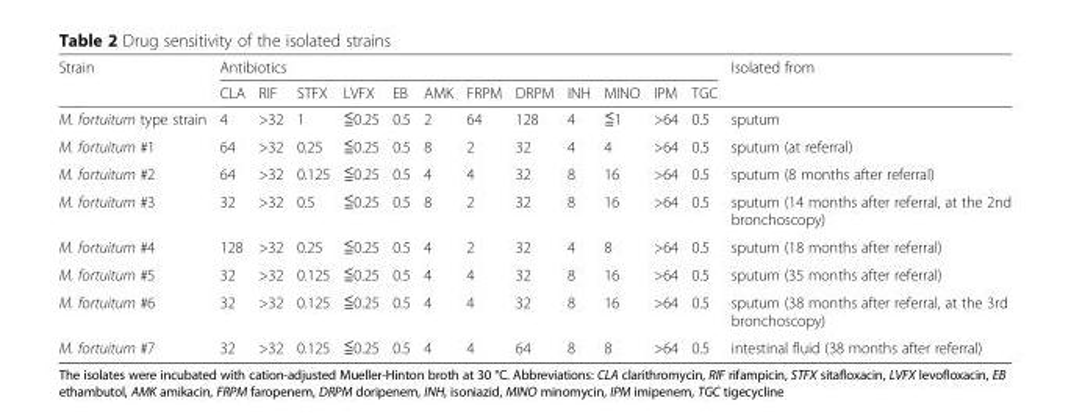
<table><thead><tr><td rowspan="2">Strain</td><td colspan="12">Antibiotics</td><td rowspan="2">Isolated from</td></tr><tr><td>CLA</td><td>RIF</td><td>STFX</td><td>LVFX</td><td>EB</td><td>AMK</td><td>FRPM</td><td>DRPM</td><td>INH</td><td>MINO</td><td>IPM</td><td>TGC</td></tr></thead><tbody><tr><td>M. fortuitum type strain</td><td>4</td><td>&gt;32</td><td>1</td><td>≦0.25</td><td>0.5</td><td>2</td><td>64</td><td>128</td><td>4</td><td>≦1</td><td>&gt;64</td><td>0.5</td><td>sputum</td></tr><tr><td>M. fortuitum #1</td><td>64</td><td>&gt;32</td><td>0.25</td><td>≦0.25</td><td>0.5</td><td>8</td><td>2</td><td>32</td><td>4</td><td>4</td><td>&gt;64</td><td>0.5</td><td>sputum (at referral)</td></tr><tr><td>M. fortuitum #2</td><td>64</td><td>&gt;32</td><td>0.125</td><td>≦0.25</td><td>0.5</td><td>4</td><td>4</td><td>32</td><td>8</td><td>16</td><td>&gt;64</td><td>0.5</td><td>sputum (8 months after referral)</td></tr><tr><td>M. fortuitum #3</td><td>32</td><td>&gt;32</td><td>0.5</td><td>≦0.25</td><td>0.5</td><td>8</td><td>2</td><td>32</td><td>8</td><td>16</td><td>&gt;64</td><td>0.5</td><td>sputum (14 months after referral, at the 2nd bronchoscopy)</td></tr><tr><td>M. fortuitum #4</td><td>128</td><td>&gt;32</td><td>0.25</td><td>≦0.25</td><td>0.5</td><td>4</td><td>2</td><td>32</td><td>4</td><td>8</td><td>&gt;64</td><td>0.5</td><td>sputum (18 months after referral)</td></tr><tr><td>M. fortuitum #5</td><td>32</td><td>&gt;32</td><td>0.125</td><td>≦0.25</td><td>0.5</td><td>4</td><td>4</td><td>32</td><td>8</td><td>16</td><td>&gt;64</td><td>0.5</td><td>sputum (35 months after referral)</td></tr><tr><td>M. fortuitum #6</td><td>32</td><td>&gt;32</td><td>0.125</td><td>≦0.25</td><td>0.5</td><td>4</td><td>4</td><td>32</td><td>8</td><td>16</td><td>&gt;64</td><td>0.5</td><td>sputum (38 months after referral, at the 3rd bronchoscopy)</td></tr><tr><td>M. fortuitum #7</td><td>32</td><td>&gt;32</td><td>0.125</td><td>≦0.25</td><td>0.5</td><td>4</td><td>4</td><td>64</td><td>8</td><td>8</td><td>&gt;64</td><td>0.5</td><td>intestinal fluid (38 months after referral)</td></tr></tbody></table>